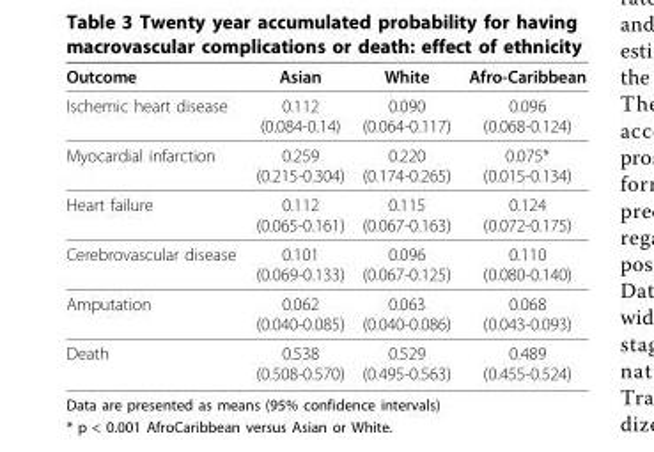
<table><thead><tr><td>Outcome</td><td>Asian</td><td>White</td><td>Afro-Caribbean</td></tr></thead><tbody><tr><td>Ischemic heart disease</td><td>0.112 (0.084-0.14)</td><td>0.090 (0.064-0.117)</td><td>0.096 (0.068-0.124)</td></tr><tr><td>Myocardial infarction</td><td>0.259 (0.215-0.304)</td><td>0.220 (0.174-0.265)</td><td>0.075* (0.015-0.134)</td></tr><tr><td>Heart failure</td><td>0.112 (0.065-0.161)</td><td>0.115 (0.067-0.163)</td><td>0.124 (0.072-0.175)</td></tr><tr><td>Cerebrovascular disease</td><td>0.101 (0.069-0.133)</td><td>0.096 (0.067-0.125)</td><td>0.110 (0.080-0.140)</td></tr><tr><td>Amputation</td><td>0.062 (0.040-0.085)</td><td>0.063 (0.040-0.086)</td><td>0.068 (0.043-0.093)</td></tr><tr><td>Death</td><td>0.538 (0.508-0.570)</td><td>0.529 (0.495-0.563)</td><td>0.489 (0.455-0.524)</td></tr></tbody></table>